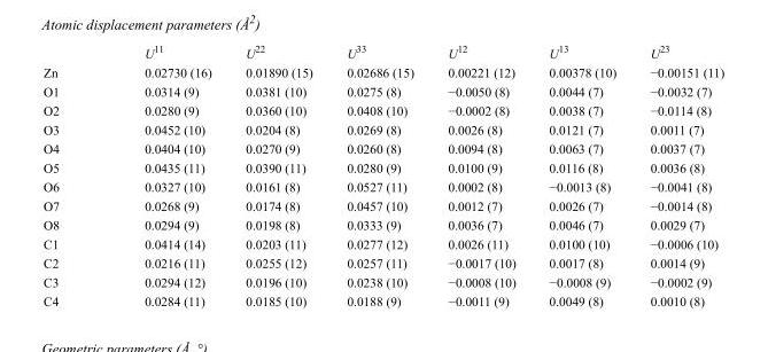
<table><thead><tr><td></td><td>U<sup>11</sup></td><td>U<sup>22</sup></td><td>U<sup>33</sup></td><td>U<sup>12</sup></td><td>U<sup>13</sup></td><td>U<sup>23</sup></td></tr></thead><tbody><tr><td>Zn</td><td>0.02730 (16)</td><td>0.01890 (15)</td><td>0.02686 (15)</td><td>0.00221 (12)</td><td>0.00378 (10)</td><td>−0.00151 (11)</td></tr><tr><td>O1</td><td>0.0314 (9)</td><td>0.0381 (10)</td><td>0.0275 (8)</td><td>−0.0050 (8)</td><td>0.0044 (7)</td><td>−0.0032 (7)</td></tr><tr><td>O2</td><td>0.0280 (9)</td><td>0.0360 (10)</td><td>0.0408 (10)</td><td>−0.0002 (8)</td><td>0.0038 (7)</td><td>−0.0114 (8)</td></tr><tr><td>O3</td><td>0.0452 (10)</td><td>0.0204 (8)</td><td>0.0269 (8)</td><td>0.0026 (8)</td><td>0.0121 (7)</td><td>0.0011 (7)</td></tr><tr><td>O4</td><td>0.0404 (10)</td><td>0.0270 (9)</td><td>0.0260 (8)</td><td>0.0094 (8)</td><td>0.0063 (7)</td><td>0.0037 (7)</td></tr><tr><td>O5</td><td>0.0435 (11)</td><td>0.0390 (11)</td><td>0.0280 (9)</td><td>0.0100 (9)</td><td>0.0116 (8)</td><td>0.0036 (8)</td></tr><tr><td>O6</td><td>0.0327 (10)</td><td>0.0161 (8)</td><td>0.0527 (11)</td><td>0.0002 (8)</td><td>−0.0013 (8)</td><td>−0.0041 (8)</td></tr><tr><td>O7</td><td>0.0268 (9)</td><td>0.0174 (8)</td><td>0.0457 (10)</td><td>0.0012 (7)</td><td>0.0026 (7)</td><td>−0.0014 (8)</td></tr><tr><td>O8</td><td>0.0294 (9)</td><td>0.0198 (8)</td><td>0.0333 (9)</td><td>0.0036 (7)</td><td>0.0046 (7)</td><td>0.0029 (7)</td></tr><tr><td>C1</td><td>0.0414 (14)</td><td>0.0203 (11)</td><td>0.0277 (12)</td><td>0.0026 (11)</td><td>0.0100 (10)</td><td>−0.0006 (10)</td></tr><tr><td>C2</td><td>0.0216 (11)</td><td>0.0255 (12)</td><td>0.0257 (11)</td><td>−0.0017 (10)</td><td>0.0017 (8)</td><td>0.0014 (9)</td></tr><tr><td>C3</td><td>0.0294 (12)</td><td>0.0196 (10)</td><td>0.0238 (10)</td><td>−0.0008 (10)</td><td>−0.0008 (9)</td><td>−0.0002 (9)</td></tr><tr><td>C4</td><td>0.0284 (11)</td><td>0.0185 (10)</td><td>0.0188 (9)</td><td>−0.0011 (9)</td><td>0.0049 (8)</td><td>0.0010 (8)</td></tr></tbody></table>